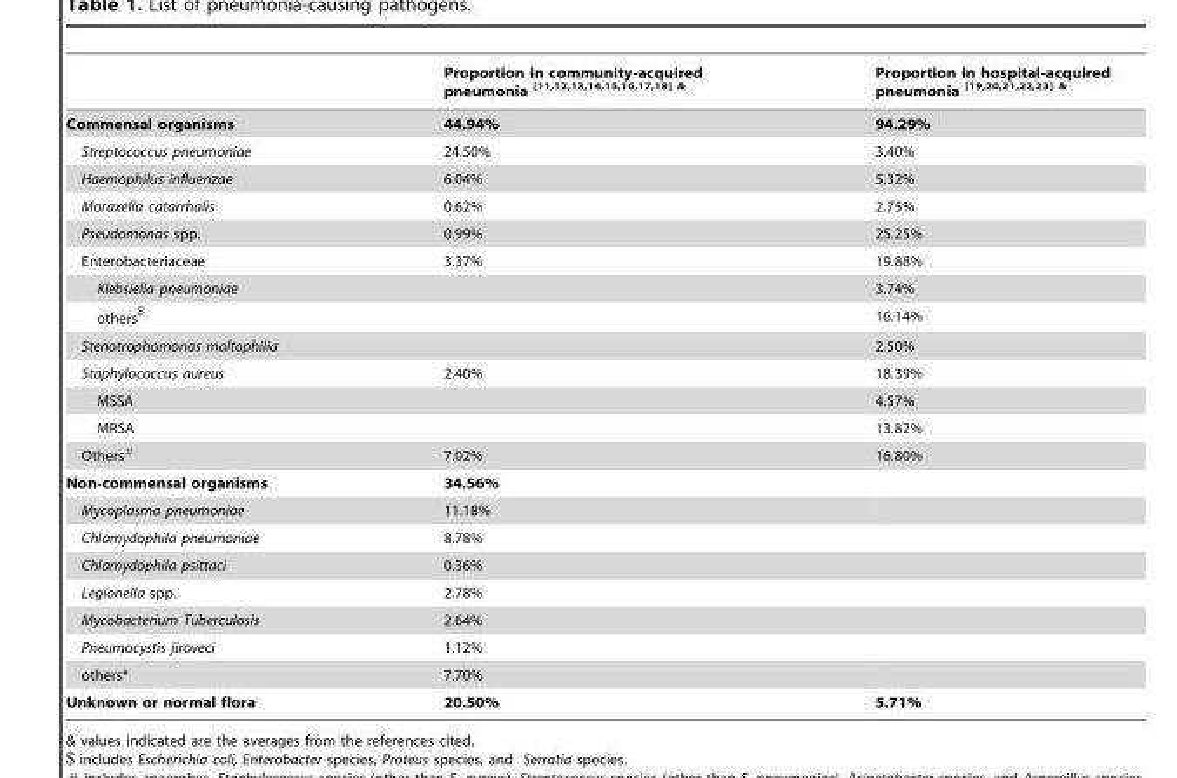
<table><thead><tr><td></td><td>Proportion in community-acquired pneumonia [11,12,13,14,15,16,17,18] &amp;</td><td>Proportion in hospital-acquired pneumonia [19,20,21,22,23] &amp;</td></tr></thead><tbody><tr><td>Commensal organisms</td><td>44.94%</td><td>94.29%</td></tr><tr><td>Streptococcus pneumoniae</td><td>24.50%</td><td>3.40%</td></tr><tr><td>Haemophilus influenzae</td><td>6.04%</td><td>5.32%</td></tr><tr><td>Moraxella catarrhalis</td><td>0.62%</td><td>2.75%</td></tr><tr><td>Pseudomonas spp.</td><td>0.99%</td><td>25.25%</td></tr><tr><td>Enterobacteriaceae</td><td>3.37%</td><td>19.88%</td></tr><tr><td>Klebsiella pneumoniae</td><td></td><td>3.74%</td></tr><tr><td>others<sup>$</sup></td><td></td><td>16.14%</td></tr><tr><td>Stenotrophomonas maltophilia</td><td></td><td>2.50%</td></tr><tr><td>Staphylococcus aureus</td><td>2.40%</td><td>18.39%</td></tr><tr><td>MSSA</td><td></td><td>4.57%</td></tr><tr><td>MRSA</td><td></td><td>13.82%</td></tr><tr><td>Others<sup>#</sup></td><td>7.02%</td><td>16.80%</td></tr><tr><td>Non-commensal organisms</td><td>34.56%</td><td></td></tr><tr><td>Mycoplasma pneumoniae</td><td>11.18%</td><td></td></tr><tr><td>Chlamydophila pneumoniae</td><td>8.78%</td><td></td></tr><tr><td>Chlamydophila psittaci</td><td>0.36%</td><td></td></tr><tr><td>Legionella spp.</td><td>2.78%</td><td></td></tr><tr><td>Mycobacterium Tuberculosis</td><td>2.64%</td><td></td></tr><tr><td>Pneumocystis jiroveci</td><td>1.12%</td><td></td></tr><tr><td>others*</td><td>7.70%</td><td></td></tr><tr><td>Unknown or normal flora</td><td>20.50%</td><td>5.71%</td></tr></tbody></table>